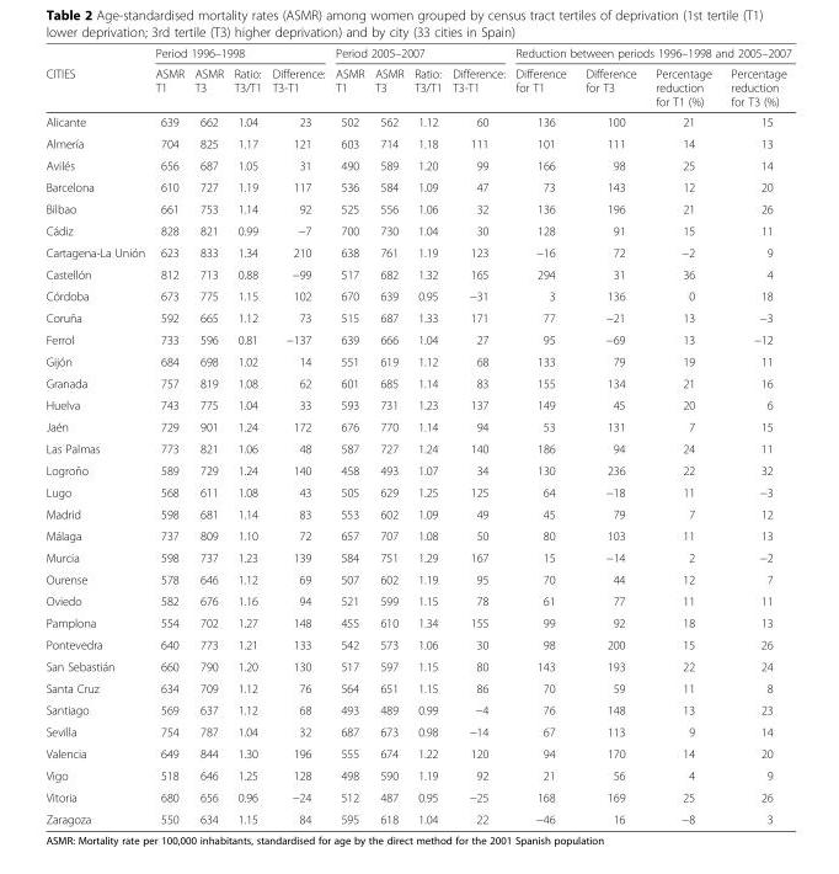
<table><thead><tr><td rowspan="2">CITIES</td><td colspan="4">Period 1996–1998</td><td colspan="4">Period 2005–2007</td><td colspan="4">Reduction between periods 1996–1998 and 2005–2007</td></tr><tr><td>ASMR T1</td><td>ASMR T3</td><td>Ratio: T3/T1</td><td>Difference: T3-T1</td><td>ASMR T1</td><td>ASMR T3</td><td>Ratio: T3/T1</td><td>Difference: T3-T1</td><td>Difference for T1</td><td>Difference for T3</td><td>Percentage reduction for T1 (%)</td><td>Percentage reduction for T3 (%)</td></tr></thead><tbody><tr><td>Alicante</td><td>639</td><td>662</td><td>1.04</td><td>23</td><td>502</td><td>562</td><td>1.12</td><td>60</td><td>136</td><td>100</td><td>21</td><td>15</td></tr><tr><td>Almería</td><td>704</td><td>825</td><td>1.17</td><td>121</td><td>603</td><td>714</td><td>1.18</td><td>111</td><td>101</td><td>111</td><td>14</td><td>13</td></tr><tr><td>Avilés</td><td>656</td><td>687</td><td>1.05</td><td>31</td><td>490</td><td>589</td><td>1.20</td><td>99</td><td>166</td><td>98</td><td>25</td><td>14</td></tr><tr><td>Barcelona</td><td>610</td><td>727</td><td>1.19</td><td>117</td><td>536</td><td>584</td><td>1.09</td><td>47</td><td>73</td><td>143</td><td>12</td><td>20</td></tr><tr><td>Bilbao</td><td>661</td><td>753</td><td>1.14</td><td>92</td><td>525</td><td>556</td><td>1.06</td><td>32</td><td>136</td><td>196</td><td>21</td><td>26</td></tr><tr><td>Cádiz</td><td>828</td><td>821</td><td>0.99</td><td>−7</td><td>700</td><td>730</td><td>1.04</td><td>30</td><td>128</td><td>91</td><td>15</td><td>11</td></tr><tr><td>Cartagena-La Unión</td><td>623</td><td>833</td><td>1.34</td><td>210</td><td>638</td><td>761</td><td>1.19</td><td>123</td><td>−16</td><td>72</td><td>−2</td><td>9</td></tr><tr><td>Castellón</td><td>812</td><td>713</td><td>0.88</td><td>−99</td><td>517</td><td>682</td><td>1.32</td><td>165</td><td>294</td><td>31</td><td>36</td><td>4</td></tr><tr><td>Córdoba</td><td>673</td><td>775</td><td>1.15</td><td>102</td><td>670</td><td>639</td><td>0.95</td><td>−31</td><td>3</td><td>136</td><td>0</td><td>18</td></tr><tr><td>Coruña</td><td>592</td><td>665</td><td>1.12</td><td>73</td><td>515</td><td>687</td><td>1.33</td><td>171</td><td>77</td><td>−21</td><td>13</td><td>−3</td></tr><tr><td>Ferrol</td><td>733</td><td>596</td><td>0.81</td><td>−137</td><td>639</td><td>666</td><td>1.04</td><td>27</td><td>95</td><td>−69</td><td>13</td><td>−12</td></tr><tr><td>Gijón</td><td>684</td><td>698</td><td>1.02</td><td>14</td><td>551</td><td>619</td><td>1.12</td><td>68</td><td>133</td><td>79</td><td>19</td><td>11</td></tr><tr><td>Granada</td><td>757</td><td>819</td><td>1.08</td><td>62</td><td>601</td><td>685</td><td>1.14</td><td>83</td><td>155</td><td>134</td><td>21</td><td>16</td></tr><tr><td>Huelva</td><td>743</td><td>775</td><td>1.04</td><td>33</td><td>593</td><td>731</td><td>1.23</td><td>137</td><td>149</td><td>45</td><td>20</td><td>6</td></tr><tr><td>Jaén</td><td>729</td><td>901</td><td>1.24</td><td>172</td><td>676</td><td>770</td><td>1.14</td><td>94</td><td>53</td><td>131</td><td>7</td><td>15</td></tr><tr><td>Las Palmas</td><td>773</td><td>821</td><td>1.06</td><td>48</td><td>587</td><td>727</td><td>1.24</td><td>140</td><td>186</td><td>94</td><td>24</td><td>11</td></tr><tr><td>Logroño</td><td>589</td><td>729</td><td>1.24</td><td>140</td><td>458</td><td>493</td><td>1.07</td><td>34</td><td>130</td><td>236</td><td>22</td><td>32</td></tr><tr><td>Lugo</td><td>568</td><td>611</td><td>1.08</td><td>43</td><td>505</td><td>629</td><td>1.25</td><td>125</td><td>64</td><td>−18</td><td>11</td><td>−3</td></tr><tr><td>Madrid</td><td>598</td><td>681</td><td>1.14</td><td>83</td><td>553</td><td>602</td><td>1.09</td><td>49</td><td>45</td><td>79</td><td>7</td><td>12</td></tr><tr><td>Málaga</td><td>737</td><td>809</td><td>1.10</td><td>72</td><td>657</td><td>707</td><td>1.08</td><td>50</td><td>80</td><td>103</td><td>11</td><td>13</td></tr><tr><td>Murcia</td><td>598</td><td>737</td><td>1.23</td><td>139</td><td>584</td><td>751</td><td>1.29</td><td>167</td><td>15</td><td>−14</td><td>2</td><td>−2</td></tr><tr><td>Ourense</td><td>578</td><td>646</td><td>1.12</td><td>69</td><td>507</td><td>602</td><td>1.19</td><td>95</td><td>70</td><td>44</td><td>12</td><td>7</td></tr><tr><td>Oviedo</td><td>582</td><td>676</td><td>1.16</td><td>94</td><td>521</td><td>599</td><td>1.15</td><td>78</td><td>61</td><td>77</td><td>11</td><td>11</td></tr><tr><td>Pamplona</td><td>554</td><td>702</td><td>1.27</td><td>148</td><td>455</td><td>610</td><td>1.34</td><td>155</td><td>99</td><td>92</td><td>18</td><td>13</td></tr><tr><td>Pontevedra</td><td>640</td><td>773</td><td>1.21</td><td>133</td><td>542</td><td>573</td><td>1.06</td><td>30</td><td>98</td><td>200</td><td>15</td><td>26</td></tr><tr><td>San Sebastián</td><td>660</td><td>790</td><td>1.20</td><td>130</td><td>517</td><td>597</td><td>1.15</td><td>80</td><td>143</td><td>193</td><td>22</td><td>24</td></tr><tr><td>Santa Cruz</td><td>634</td><td>709</td><td>1.12</td><td>76</td><td>564</td><td>651</td><td>1.15</td><td>86</td><td>70</td><td>59</td><td>11</td><td>8</td></tr><tr><td>Santiago</td><td>569</td><td>637</td><td>1.12</td><td>68</td><td>493</td><td>489</td><td>0.99</td><td>−4</td><td>76</td><td>148</td><td>13</td><td>23</td></tr><tr><td>Sevilla</td><td>754</td><td>787</td><td>1.04</td><td>32</td><td>687</td><td>673</td><td>0.98</td><td>−14</td><td>67</td><td>113</td><td>9</td><td>14</td></tr><tr><td>Valencia</td><td>649</td><td>844</td><td>1.30</td><td>196</td><td>555</td><td>674</td><td>1.22</td><td>120</td><td>94</td><td>170</td><td>14</td><td>20</td></tr><tr><td>Vigo</td><td>518</td><td>646</td><td>1.25</td><td>128</td><td>498</td><td>590</td><td>1.19</td><td>92</td><td>21</td><td>56</td><td>4</td><td>9</td></tr><tr><td>Vitoria</td><td>680</td><td>656</td><td>0.96</td><td>−24</td><td>512</td><td>487</td><td>0.95</td><td>−25</td><td>168</td><td>169</td><td>25</td><td>26</td></tr><tr><td>Zaragoza</td><td>550</td><td>634</td><td>1.15</td><td>84</td><td>595</td><td>618</td><td>1.04</td><td>22</td><td>−46</td><td>16</td><td>−8</td><td>3</td></tr></tbody></table>